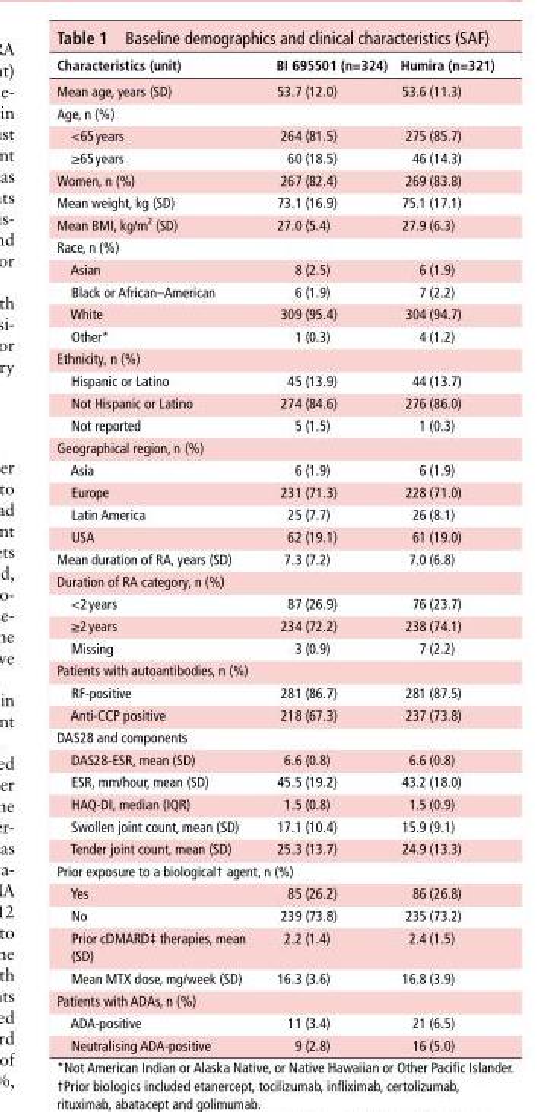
<table><thead><tr><td>Characteristics (unit)</td><td>bI 695501 (n=324)</td><td>humira (n=321)</td></tr></thead><tbody><tr><td>Mean age, years (SD)</td><td>53.7 (12.0)</td><td>53.6 (11.3)</td></tr><tr><td colspan="3">Age, n (%)</td></tr><tr><td>&lt;65 years</td><td>264 (81.5)</td><td>275 (85.7)</td></tr><tr><td>≥65 years</td><td>60 (18.5)</td><td>46 (14.3)</td></tr><tr><td>Women, n (%)</td><td>267 (82.4)</td><td>269 (83.8)</td></tr><tr><td>Mean weight, kg (SD)</td><td>73.1 (16.9)</td><td>75.1 (17.1)</td></tr><tr><td>Mean BMI, kg/m<sup>2</sup> (SD)</td><td>27.0 (5.4)</td><td>27.9 (6.3)</td></tr><tr><td colspan="3">Race, n (%)</td></tr><tr><td>Asian</td><td>8 (2.5)</td><td>6 (1.9)</td></tr><tr><td>Black or African–American</td><td>6 (1.9)</td><td>7 (2.2)</td></tr><tr><td>White</td><td>309 (95.4)</td><td>304 (94.7)</td></tr><tr><td>Other*</td><td>1 (0.3)</td><td>4 (1.2)</td></tr><tr><td colspan="3">Ethnicity, n (%)</td></tr><tr><td>Hispanic or Latino</td><td>45 (13.9)</td><td>44 (13.7)</td></tr><tr><td>Not Hispanic or Latino</td><td>274 (84.6)</td><td>276 (86.0)</td></tr><tr><td>Not reported</td><td>5 (1.5)</td><td>1 (0.3)</td></tr><tr><td colspan="3">Geographical region, n (%)</td></tr><tr><td>Asia</td><td>6 (1.9)</td><td>6 (1.9)</td></tr><tr><td>Europe</td><td>231 (71.3)</td><td>228 (71.0)</td></tr><tr><td>Latin America</td><td>25 (7.7)</td><td>26 (8.1)</td></tr><tr><td>USA</td><td>62 (19.1)</td><td>61 (19.0)</td></tr><tr><td>Mean duration of RA, years (SD)</td><td>7.3 (7.2)</td><td>7.0 (6.8)</td></tr><tr><td colspan="3">Duration of RA category, n (%)</td></tr><tr><td>&lt;2 years</td><td>87 (26.9)</td><td>76 (23.7)</td></tr><tr><td>≥2 years</td><td>234 (72.2)</td><td>238 (74.1)</td></tr><tr><td>Missing</td><td>3 (0.9)</td><td>7 (2.2)</td></tr><tr><td colspan="3">Patients with autoantibodies, n (%)</td></tr><tr><td>RF-positive</td><td>281 (86.7)</td><td>281 (87.5)</td></tr><tr><td>Anti-CCP positive</td><td>218 (67.3)</td><td>237 (73.8)</td></tr><tr><td colspan="3">DAS28 and components</td></tr><tr><td>DAS28-ESR, mean (SD)</td><td>6.6 (0.8)</td><td>6.6 (0.8)</td></tr><tr><td>ESR, mm/hour, mean (SD)</td><td>45.5 (19.2)</td><td>43.2 (18.0)</td></tr><tr><td>HAQ-DI, median (IQR)</td><td>1.5 (0.8)</td><td>1.5 (0.9)</td></tr><tr><td>Swollen joint count, mean (SD)</td><td>17.1 (10.4)</td><td>15.9 (9.1)</td></tr><tr><td>Tender joint count, mean (SD)</td><td>25.3 (13.7)</td><td>24.9 (13.3)</td></tr><tr><td colspan="3">Prior exposure to a biological† agent, n (%)</td></tr><tr><td>Yes</td><td>85 (26.2)</td><td>86 (26.8)</td></tr><tr><td>No</td><td>239 (73.8)</td><td>235 (73.2)</td></tr><tr><td>Prior cDMARD‡ therapies, mean (SD)</td><td>2.2 (1.4)</td><td>2.4 (1.5)</td></tr><tr><td>Mean MTX dose, mg/week (SD)</td><td>16.3 (3.6)</td><td>16.8 (3.9)</td></tr><tr><td colspan="3">Patients with ADAs, n (%)</td></tr><tr><td>ADA-positive</td><td>11 (3.4)</td><td>21 (6.5)</td></tr><tr><td>Neutralising ADA-positive</td><td>9 (2.8)</td><td>16 (5.0)</td></tr></tbody></table>